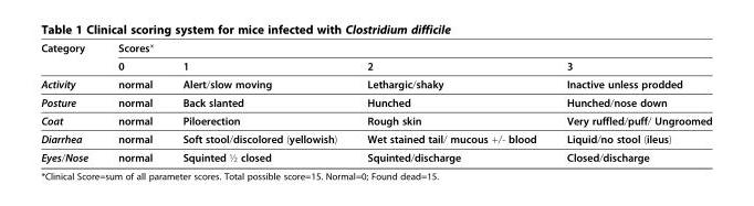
<table><thead><tr><td rowspan="2">Category</td><td colspan="4">Scores*</td></tr><tr><td>0</td><td>1</td><td>2</td><td>3</td></tr></thead><tbody><tr><td>Activity</td><td>normal</td><td>Alert/slow moving</td><td>Lethargic/shaky</td><td>Inactive unless prodded</td></tr><tr><td>Posture</td><td>normal</td><td>Back slanted</td><td>Hunched</td><td>Hunched/nose down</td></tr><tr><td>Coat</td><td>normal</td><td>Piloerection</td><td>Rough skin</td><td>Very ruffled/puff/ Ungroomed</td></tr><tr><td>Diarrhea</td><td>normal</td><td>Soft stool/discolored (yellowish)</td><td>Wet stained tail/ mucous +/- blood</td><td>Liquid/no stool (ileus)</td></tr><tr><td>Eyes/Nose</td><td>normal</td><td>Squinted ½ closed</td><td>Squinted/discharge</td><td>Closed/discharge</td></tr></tbody></table>